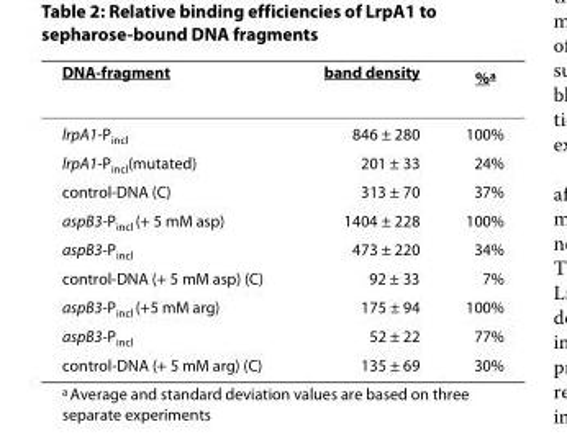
<table><thead><tr><td>DNA-fragment</td><td>band density</td><td>%<sup>a</sup></td></tr></thead><tbody><tr><td>lrpA1-P<sub>incl</sub></td><td>846 ± 280</td><td>100%</td></tr><tr><td>lrpA1-P<sub>incl</sub>(mutated)</td><td>201 ± 33</td><td>24%</td></tr><tr><td>control-DNA (C)</td><td>313 ± 70</td><td>37%</td></tr><tr><td>aspB3-P<sub>incl</sub> (+ 5 mM asp)</td><td>1404 ± 228</td><td>100%</td></tr><tr><td>aspB3-P<sub>incl</sub></td><td>473 ± 220</td><td>34%</td></tr><tr><td>control-DNA (+ 5 mM asp) (C)</td><td>92 ± 33</td><td>7%</td></tr><tr><td>aspB3-P<sub>incl</sub> (+5 mM arg)</td><td>175 ± 94</td><td>100%</td></tr><tr><td>aspB3-P<sub>incl</sub></td><td>52 ± 22</td><td>77%</td></tr><tr><td>control-DNA (+ 5 mM arg) (C)</td><td>135 ± 69</td><td>30%</td></tr></tbody></table>